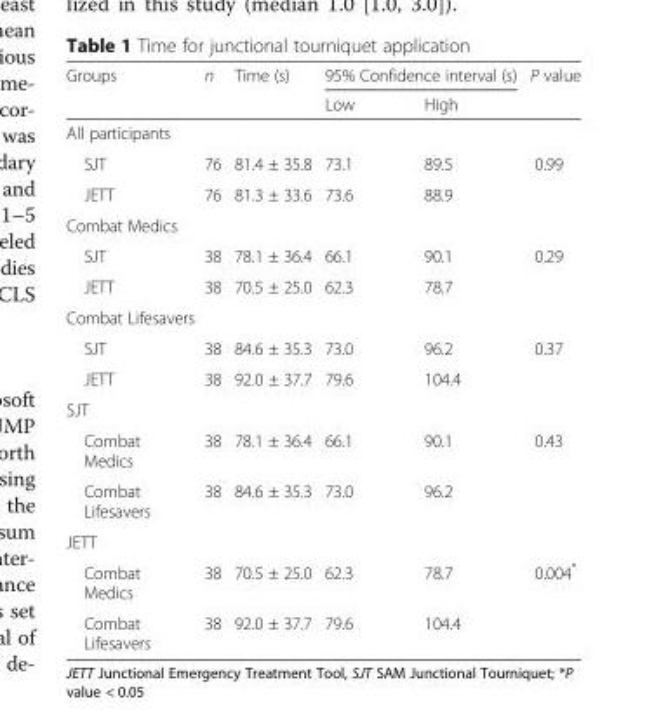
<table><thead><tr><td rowspan="2">Groups</td><td rowspan="2">n</td><td rowspan="2">Time (s)</td><td colspan="2">95% Confidence interval (s)</td><td rowspan="2">P value</td></tr><tr><td>Low</td><td>High</td></tr></thead><tbody><tr><td colspan="6">All participants</td></tr><tr><td>SJT</td><td>76</td><td>81.4 ± 35.8</td><td>73.1</td><td>89.5</td><td rowspan="2">0.99</td></tr><tr><td>JETT</td><td>76</td><td>81.3 ± 33.6</td><td>73.6</td><td>88.9</td></tr><tr><td colspan="6">Combat Medics</td></tr><tr><td>SJT</td><td>38</td><td>78.1 ± 36.4</td><td>66.1</td><td>90.1</td><td rowspan="2">0.29</td></tr><tr><td>JETT</td><td>38</td><td>70.5 ± 25.0</td><td>62.3</td><td>78.7</td></tr><tr><td colspan="6">Combat Lifesavers</td></tr><tr><td>SJT</td><td>38</td><td>84.6 ± 35.3</td><td>73.0</td><td>96.2</td><td rowspan="2">0.37</td></tr><tr><td>JETT</td><td>38</td><td>92.0 ± 37.7</td><td>79.6</td><td>104.4</td></tr><tr><td colspan="6">SJT</td></tr><tr><td>Combat Medics</td><td>38</td><td>78.1 ± 36.4</td><td>66.1</td><td>90.1</td><td rowspan="2">0.43</td></tr><tr><td>Combat Lifesavers</td><td>38</td><td>84.6 ± 35.3</td><td>73.0</td><td>96.2</td></tr><tr><td colspan="6">JETT</td></tr><tr><td>Combat Medics</td><td>38</td><td>70.5 ± 25.0</td><td>62.3</td><td>78.7</td><td rowspan="2">0.004*</td></tr><tr><td>Combat Lifesavers</td><td>38</td><td>92.0 ± 37.7</td><td>79.6</td><td>104.4</td></tr></tbody></table>